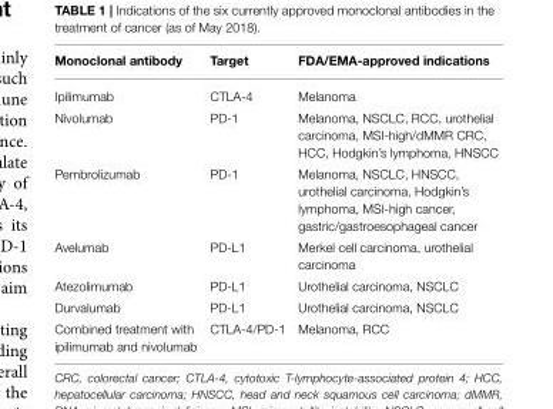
<table><thead><tr><td>Monoclonal antibody</td><td>Target</td><td>FDA/EMA-approved indications</td></tr></thead><tbody><tr><td>Ipilimumab</td><td>CTLA-4</td><td>Melanoma</td></tr><tr><td>Nivolumab</td><td>PD-1</td><td>Melanoma, NSCLC, RCC, urothelial carcinoma, MSI-high/dMMR CRC, HCC, Hodgkin’s lymphoma, HNSCC</td></tr><tr><td>Pembrolizumab</td><td>PD-1</td><td>Melanoma, NSCLC, HNSCC, urothelial carcinoma, Hodgkin’s lymphoma, MSI-high cancer, gastric/gastroesophageal cancer</td></tr><tr><td>Avelumab</td><td>PD-L1</td><td>Merkel cell carcinoma, urothelial carcinoma</td></tr><tr><td>Atezolimumab</td><td>PD-L1</td><td>Urothelial carcinoma, NSCLC</td></tr><tr><td>Durvalumab</td><td>PD-L1</td><td>Urothelial carcinoma, NSCLC</td></tr><tr><td>Combined treatment with ipilimumab and nivolumab</td><td>CTLA-4/PD-1</td><td>Melanoma, RCC</td></tr></tbody></table>